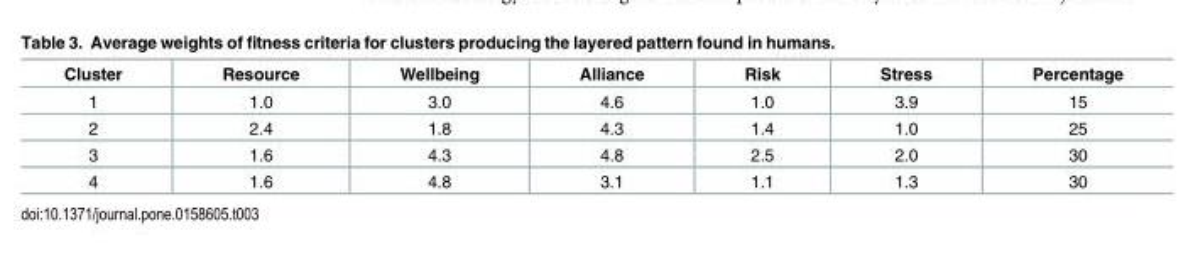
<table><thead><tr><td>Cluster</td><td>Resource</td><td>Wellbeing</td><td>Alliance</td><td>Risk</td><td>Stress</td><td>Percentage</td></tr></thead><tbody><tr><td>1</td><td>1.0</td><td>3.0</td><td>4.6</td><td>1.0</td><td>3.9</td><td>15</td></tr><tr><td>2</td><td>2.4</td><td>1.8</td><td>4.3</td><td>1.4</td><td>1.0</td><td>25</td></tr><tr><td>3</td><td>1.6</td><td>4.3</td><td>4.8</td><td>2.5</td><td>2.0</td><td>30</td></tr><tr><td>4</td><td>1.6</td><td>4.8</td><td>3.1</td><td>1.1</td><td>1.3</td><td>30</td></tr></tbody></table>